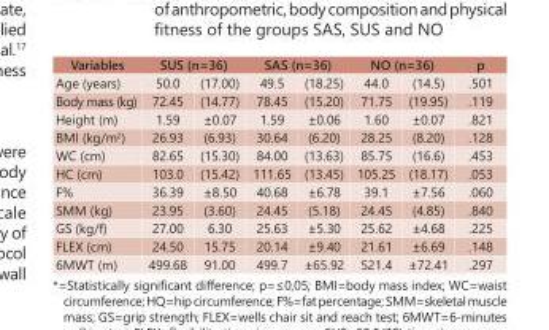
<table><tbody><tr><td>Variables</td><td colspan="2">SUS (n=36)</td><td colspan="2">SAS (n=36)</td><td colspan="2">NO (n=36)</td><td>p</td></tr><tr><td>Age (years)</td><td>50.0</td><td>(17.00)</td><td>49.5</td><td>(18.25)</td><td>44.0</td><td>(14.5)</td><td>.501</td></tr><tr><td>Body mass (kg)</td><td>72.45</td><td>(14.77)</td><td>78.45</td><td>(15.20)</td><td>71.75</td><td>(19.95)</td><td>.119</td></tr><tr><td>Height (m)</td><td>1.59</td><td>±0.07</td><td>1.59</td><td>±0.06</td><td>1.60</td><td>±0.07</td><td>.821</td></tr><tr><td>BMI (kg/m<sup>2</sup>)</td><td>26.93</td><td>(6.93)</td><td>30.64</td><td>(6.20)</td><td>28.25</td><td>(8.20)</td><td>.128</td></tr><tr><td>WC (cm)</td><td>82.65</td><td>(15.30)</td><td>84.00</td><td>(13.63)</td><td>85.75</td><td>(16.6)</td><td>.453</td></tr><tr><td>HC (cm)</td><td>103.0</td><td>(15.42)</td><td>111.65</td><td>(13.45)</td><td>105.25</td><td>(18.17)</td><td>.053</td></tr><tr><td>F%</td><td>36.39</td><td>±8.50</td><td>40.68</td><td>±6.78</td><td>39.1</td><td>±7.56</td><td>.060</td></tr><tr><td>SMM (kg)</td><td>23.95</td><td>(3.60)</td><td>24.45</td><td>(5.18)</td><td>24.45</td><td>(4.85)</td><td>.840</td></tr><tr><td>GS (kg/f)</td><td>27.00</td><td>6.30</td><td>25.63</td><td>±5.30</td><td>25.62</td><td>±4.68</td><td>.225</td></tr><tr><td>FLEX (cm)</td><td>24.50</td><td>15.75</td><td>20.14</td><td>±9.40</td><td>21.61</td><td>±6.69</td><td>.148</td></tr><tr><td>6MWT (m)</td><td>499.68</td><td>91.00</td><td>499.7</td><td>±65.92</td><td>521.4</td><td>±72.41</td><td>.297</td></tr></tbody></table>